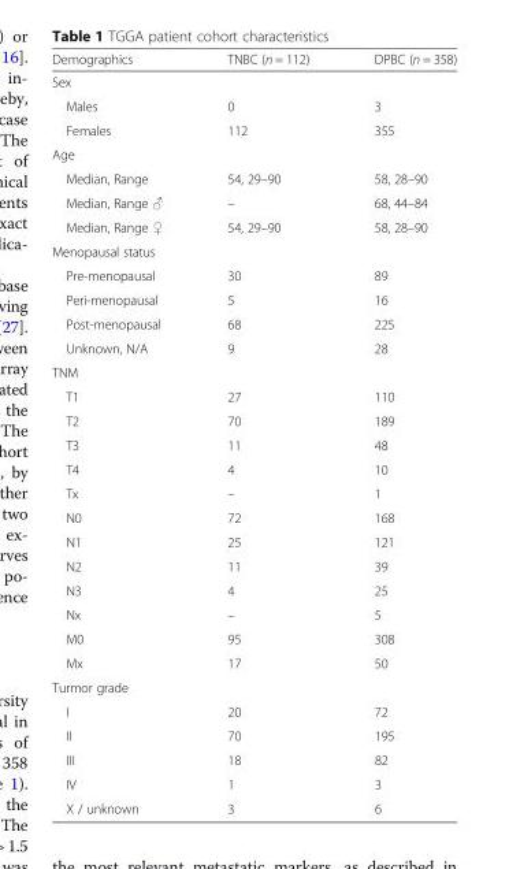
<table><thead><tr><td>Demographics</td><td>TNBC (n = 112)</td><td>DPBC (n = 358)</td></tr></thead><tbody><tr><td colspan="3">Sex</td></tr><tr><td>Males</td><td>0</td><td>3</td></tr><tr><td>Females</td><td>112</td><td>355</td></tr><tr><td colspan="3">Age</td></tr><tr><td>Median, Range</td><td>54, 29–90</td><td>58, 28–90</td></tr><tr><td>Median, Range ♂</td><td>–</td><td>68, 44–84</td></tr><tr><td>Median, Range ♀</td><td>54, 29–90</td><td>58, 28–90</td></tr><tr><td colspan="3">Menopausal status</td></tr><tr><td>Pre-menopausal</td><td>30</td><td>89</td></tr><tr><td>Peri-menopausal</td><td>5</td><td>16</td></tr><tr><td>Post-menopausal</td><td>68</td><td>225</td></tr><tr><td>Unknown, N/A</td><td>9</td><td>28</td></tr><tr><td colspan="3">TNM</td></tr><tr><td>T1</td><td>27</td><td>110</td></tr><tr><td>T2</td><td>70</td><td>189</td></tr><tr><td>T3</td><td>11</td><td>48</td></tr><tr><td>T4</td><td>4</td><td>10</td></tr><tr><td>Tx</td><td>–</td><td>1</td></tr><tr><td>N0</td><td>72</td><td>168</td></tr><tr><td>N1</td><td>25</td><td>121</td></tr><tr><td>N2</td><td>11</td><td>39</td></tr><tr><td>N3</td><td>4</td><td>25</td></tr><tr><td>Nx</td><td>–</td><td>5</td></tr><tr><td>M0</td><td>95</td><td>308</td></tr><tr><td>Mx</td><td>17</td><td>50</td></tr><tr><td colspan="3">Turmor grade</td></tr><tr><td>I</td><td>20</td><td>72</td></tr><tr><td>II</td><td>70</td><td>195</td></tr><tr><td>III</td><td>18</td><td>82</td></tr><tr><td>IV</td><td>1</td><td>3</td></tr><tr><td>X / unknown</td><td>3</td><td>6</td></tr></tbody></table>